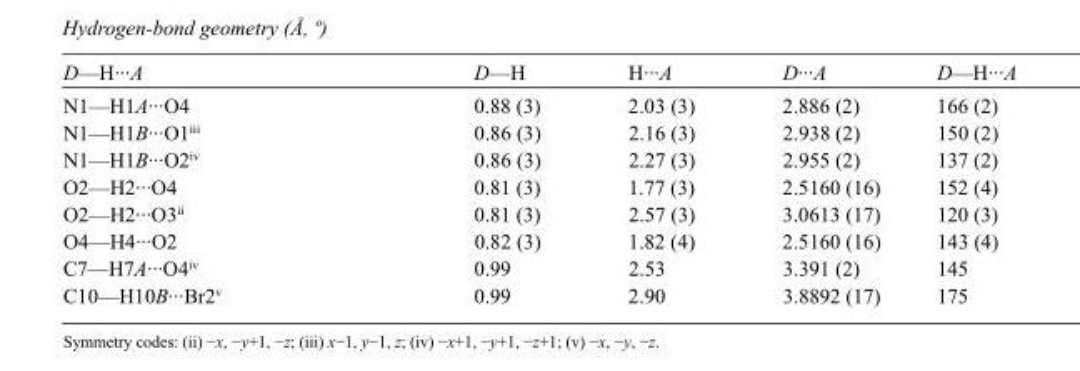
<table><tbody><tr><td>D—H···A</td><td>D—H</td><td>H···A</td><td>D···A</td><td>D—H···A</td></tr><tr><td>N1—H1A···O4</td><td>0.88 (3)</td><td>2.03 (3)</td><td>2.886 (2)</td><td>166 (2)</td></tr><tr><td>N1—H1B···O1<sup>iii</sup></td><td>0.86 (3)</td><td>2.16 (3)</td><td>2.938 (2)</td><td>150 (2)</td></tr><tr><td>N1—H1B···O2<sup>iv</sup></td><td>0.86 (3)</td><td>2.27 (3)</td><td>2.955 (2)</td><td>137 (2)</td></tr><tr><td>O2—H2···O4</td><td>0.81 (3)</td><td>1.77 (3)</td><td>2.5160 (16)</td><td>152 (4)</td></tr><tr><td>O2—H2···O3<sup>ii</sup></td><td>0.81 (3)</td><td>2.57 (3)</td><td>3.0613 (17)</td><td>120 (3)</td></tr><tr><td>O4—H4···O2</td><td>0.82 (3)</td><td>1.82 (4)</td><td>2.5160 (16)</td><td>143 (4)</td></tr><tr><td>C7—H7A···O4<sup>iv</sup></td><td>0.99</td><td>2.53</td><td>3.391 (2)</td><td>145</td></tr><tr><td>C10—H10B···Br2<sup>v</sup></td><td>0.99</td><td>2.90</td><td>3.8892 (17)</td><td>175</td></tr></tbody></table>